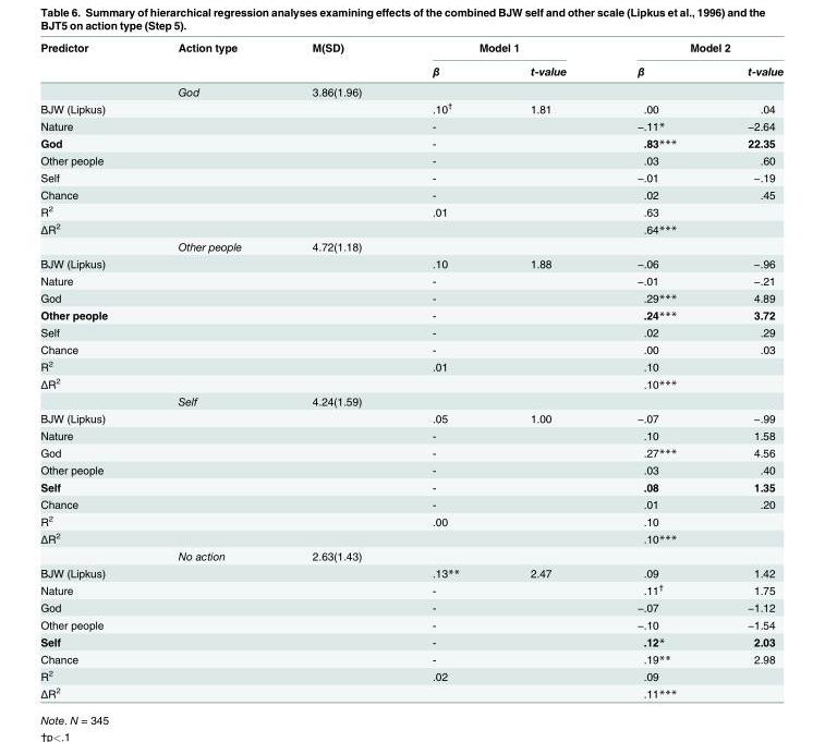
<table><thead><tr><td rowspan="2">Predictor</td><td rowspan="2">Action type</td><td rowspan="2">M(SD)</td><td colspan="2">Model 1</td><td colspan="2">Model 2</td></tr><tr><td>β</td><td>t-value</td><td>β</td><td>t-value</td></tr></thead><tbody><tr><td></td><td>God</td><td>3.86(1.96)</td><td></td><td></td><td></td><td></td></tr><tr><td>BJW (Lipkus)</td><td></td><td></td><td>.10<sup>†</sup></td><td>1.81</td><td>.00</td><td>.04</td></tr><tr><td>Nature</td><td></td><td></td><td>-</td><td></td><td>−.11*</td><td>−2.64</td></tr><tr><td>God</td><td></td><td></td><td>-</td><td></td><td>.83***</td><td>22.35</td></tr><tr><td>Other people</td><td></td><td></td><td>-</td><td></td><td>.03</td><td>.60</td></tr><tr><td>Self</td><td></td><td></td><td>-</td><td></td><td>−.01</td><td>−.19</td></tr><tr><td>Chance</td><td></td><td></td><td>-</td><td></td><td>.02</td><td>.45</td></tr><tr><td>R<sup>2</sup></td><td></td><td></td><td>.01</td><td></td><td>.63</td><td></td></tr><tr><td rowspan="2">ΔR<sup>2</sup></td><td></td><td></td><td></td><td></td><td>.64***</td><td></td></tr><tr><td>Other people</td><td>4.72(1.18)</td><td></td><td></td><td></td><td></td></tr><tr><td>BJW (Lipkus)</td><td></td><td></td><td>.10</td><td>1.88</td><td>−.06</td><td>−.96</td></tr><tr><td>Nature</td><td></td><td></td><td>-</td><td></td><td>−.01</td><td>−.21</td></tr><tr><td>God</td><td></td><td></td><td>-</td><td></td><td>.29***</td><td>4.89</td></tr><tr><td>Other people</td><td></td><td></td><td>-</td><td></td><td>.24***</td><td>3.72</td></tr><tr><td>Self</td><td></td><td></td><td>-</td><td></td><td>.02</td><td>.29</td></tr><tr><td>Chance</td><td></td><td></td><td>-</td><td></td><td>.00</td><td>.03</td></tr><tr><td>R<sup>2</sup></td><td></td><td></td><td>.01</td><td></td><td>.10</td><td></td></tr><tr><td rowspan="2">ΔR<sup>2</sup></td><td></td><td></td><td></td><td></td><td>.10***</td><td></td></tr><tr><td>Self</td><td>4.24(1.59)</td><td></td><td></td><td></td><td></td></tr><tr><td>BJW (Lipkus)</td><td></td><td></td><td>.05</td><td>1.00</td><td>−.07</td><td>−.99</td></tr><tr><td>Nature</td><td></td><td></td><td>-</td><td></td><td>.10</td><td>1.58</td></tr><tr><td>God</td><td></td><td></td><td>-</td><td></td><td>.27***</td><td>4.56</td></tr><tr><td>Other people</td><td></td><td></td><td>-</td><td></td><td>.03</td><td>.40</td></tr><tr><td>Self</td><td></td><td></td><td>-</td><td></td><td>.08</td><td>1.35</td></tr><tr><td>Chance</td><td></td><td></td><td>-</td><td></td><td>.01</td><td>.20</td></tr><tr><td>R<sup>2</sup></td><td></td><td></td><td>.00</td><td></td><td>.10</td><td></td></tr><tr><td rowspan="2">ΔR<sup>2</sup></td><td></td><td></td><td></td><td></td><td>.10***</td><td></td></tr><tr><td>No action</td><td>2.63(1.43)</td><td></td><td></td><td></td><td></td></tr><tr><td>BJW (Lipkus)</td><td></td><td></td><td>.13**</td><td>2.47</td><td>.09</td><td>1.42</td></tr><tr><td>Nature</td><td></td><td></td><td>-</td><td></td><td>.11<sup>†</sup></td><td>1.75</td></tr><tr><td>God</td><td></td><td></td><td>-</td><td></td><td>−.07</td><td>−1.12</td></tr><tr><td>Other people</td><td></td><td></td><td>-</td><td></td><td>−.10</td><td>−1.54</td></tr><tr><td>Self</td><td></td><td></td><td>-</td><td></td><td>.12*</td><td>2.03</td></tr><tr><td>Chance</td><td></td><td></td><td>-</td><td></td><td>.19**</td><td>2.98</td></tr><tr><td>R<sup>2</sup></td><td></td><td></td><td>.02</td><td></td><td>.09</td><td></td></tr><tr><td>ΔR<sup>2</sup></td><td></td><td></td><td></td><td></td><td>.11***</td><td></td></tr></tbody></table>